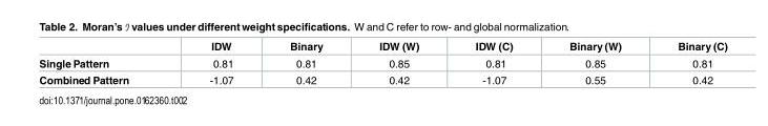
<table><thead><tr><td></td><td>IDW</td><td>Binary</td><td>IDW (W)</td><td>IDW (C)</td><td>Binary (W)</td><td>Binary (C)</td></tr></thead><tbody><tr><td>Single Pattern</td><td>0.81</td><td>0.81</td><td>0.85</td><td>0.81</td><td>0.85</td><td>0.81</td></tr><tr><td>Combined Pattern</td><td>-1.07</td><td>0.42</td><td>0.42</td><td>-1.07</td><td>0.55</td><td>0.42</td></tr></tbody></table>